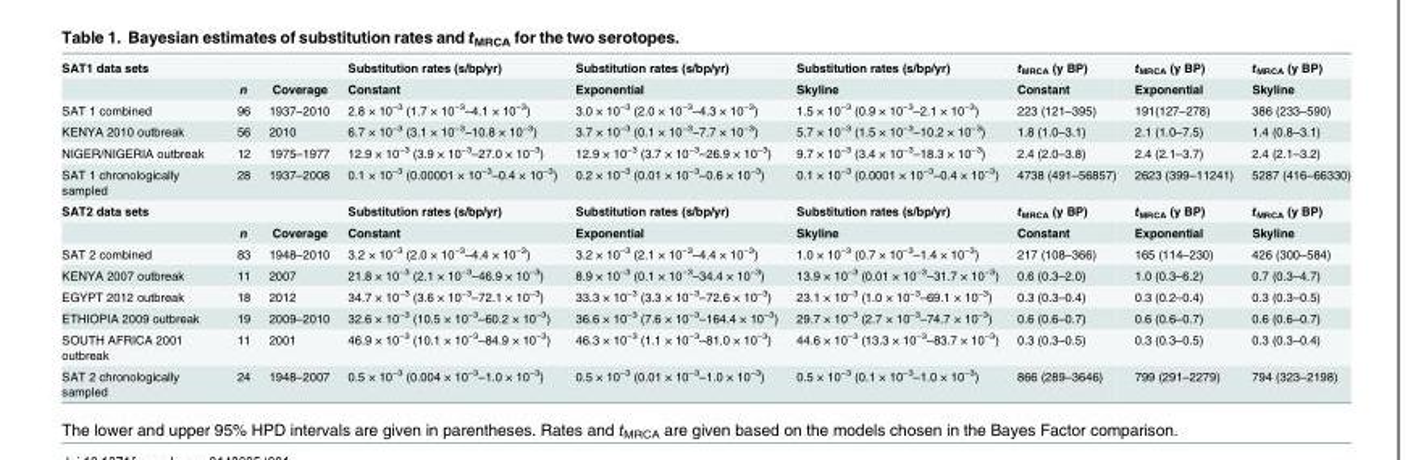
<table><tbody><tr><td rowspan="2">SAT1 data sets</td><td></td><td></td><td>Substitution rates (s/bp/yr)</td><td>Substitution rates (s/bp/yr)</td><td>Substitution rates (s/bp/yr)</td><td>t<sub>MRCA</sub> (y BP)</td><td>t<sub>MRCA</sub> (y BP)</td><td>t<sub>MRCA</sub> (y BP)</td></tr><tr><td>n</td><td>Coverage</td><td>Constant</td><td>Exponential</td><td>Skyline</td><td>Constant</td><td>Exponential</td><td>Skyline</td></tr><tr><td>SAT 1 combined</td><td>96</td><td>1937–2010</td><td>2.8 × 10<sup>−3</sup> (1.7 × 10<sup>−3</sup>–4.1 × 10<sup>−3</sup>)</td><td>3.0 × 10<sup>−3</sup> (2.0 × 10<sup>−3</sup>–4.3 × 10<sup>−3</sup>)</td><td>1.5 × 10<sup>−3</sup> (0.9 × 10<sup>−3</sup>–2.1 × 10<sup>−3</sup>)</td><td>223 (121–395)</td><td>191(127–278)</td><td>386 (233–590)</td></tr><tr><td>KENYA 2010 outbreak</td><td>56</td><td>2010</td><td>6.7 × 10<sup>−3</sup> (3.1 × 10<sup>−3</sup>–10.8 × 10<sup>−3</sup>)</td><td>3.7 × 10<sup>−3</sup> (0.1 × 10<sup>−3</sup>–7.7 × 10<sup>−3</sup>)</td><td>5.7 × 10<sup>−3</sup> (1.5 × 10<sup>−3</sup>–10.2 × 10<sup>−3</sup>)</td><td>1.8 (1.0–3.1)</td><td>2.1 (1.0–7.5)</td><td>1.4 (0.8–3.1)</td></tr><tr><td>NIGER/NIGERIA outbreak</td><td>12</td><td>1975–1977</td><td>12.9 × 10<sup>−3</sup> (3.9 × 10<sup>−3</sup>–27.0 × 10<sup>−3</sup>)</td><td>12.9 × 10<sup>−3</sup> (3.7 × 10<sup>−3</sup>–26.9 × 10<sup>−3</sup>)</td><td>9.7 × 10<sup>−3</sup> (3.4 × 10<sup>−3</sup>–18.3 × 10<sup>−3</sup>)</td><td>2.4 (2.0–3.8)</td><td>2.4 (2.1–3.7)</td><td>2.4 (2.1–3.2)</td></tr><tr><td>SAT 1 chronologically sampled</td><td>28</td><td>1937–2008</td><td>0.1 × 10<sup>−3</sup> (0.00001 × 10<sup>−3</sup>–0.4 × 10<sup>−3</sup>)</td><td>0.2 × 10<sup>−3</sup> (0.01 × 10<sup>−3</sup>–0.6 × 10<sup>−3</sup>)</td><td>0.1 × 10<sup>−3</sup> (0.0001 × 10<sup>−3</sup>–0.4 × 10<sup>−3</sup>)</td><td>4738 (491–56857)</td><td>2623 (399–11241)</td><td>5287 (416–66330)</td></tr><tr><td rowspan="2">SAT2 data sets</td><td></td><td></td><td>Substitution rates (s/bp/yr)</td><td>Substitution rates (s/bp/yr)</td><td>Substitution rates (s/bp/yr)</td><td>t<sub>MRCA</sub> (y BP)</td><td>t<sub>MRCA</sub> (y BP)</td><td>t<sub>MRCA</sub> (y BP)</td></tr><tr><td>n</td><td>Coverage</td><td>Constant</td><td>Exponential</td><td>Skyline</td><td>Constant</td><td>Exponential</td><td>Skyline</td></tr><tr><td>SAT 2 combined</td><td>83</td><td>1948–2010</td><td>3.2 × 10<sup>−3</sup> (2.0 × 10<sup>−3</sup>–4.4 × 10<sup>−3</sup>)</td><td>3.2 × 10<sup>−3</sup> (2.1 × 10<sup>−3</sup>–4.4 × 10<sup>−3</sup>)</td><td>1.0 × 10<sup>−3</sup> (0.7 × 10<sup>−3</sup>–1.4 × 10<sup>−3</sup>)</td><td>217 (108–366)</td><td>165 (114–230)</td><td>426 (300–584)</td></tr><tr><td>KENYA 2007 outbreak</td><td>11</td><td>2007</td><td>21.8 × 10<sup>−3</sup> (2.1 × 10<sup>−3</sup>–46.9 × 10<sup>−3</sup>)</td><td>8.9 × 10<sup>−3</sup> (0.1 × 10<sup>−3</sup>–34.4 × 10<sup>−3</sup>)</td><td>13.9 × 10<sup>−3</sup> (0.01 × 10<sup>−3</sup>–31.7 × 10<sup>−3</sup>)</td><td>0.6 (0.3–2.0)</td><td>1.0 (0.3–6.2)</td><td>0.7 (0.3–4.7)</td></tr><tr><td>EGYPT 2012 outbreak</td><td>18</td><td>2012</td><td>34.7 × 10<sup>−3</sup> (3.6 × 10<sup>−3</sup>–72.1 × 10<sup>−3</sup>)</td><td>33.3 × 10<sup>−3</sup> (3.3 × 10<sup>−3</sup>–72.6 × 10<sup>−3</sup>)</td><td>23.1 × 10<sup>−3</sup> (1.0 × 10<sup>−3</sup>–69.1 × 10<sup>−3</sup>)</td><td>0.3 (0.3–0.4)</td><td>0.3 (0.2–0.4)</td><td>0.3 (0.3–0.5)</td></tr><tr><td>ETHIOPIA 2009 outbreak</td><td>19</td><td>2009–2010</td><td>32.6 × 10<sup>−3</sup> (10.5 × 10<sup>−3</sup>–60.2 × 10<sup>−3</sup>)</td><td>36.6 × 10<sup>−3</sup> (7.6 × 10<sup>−3</sup>–164.4 × 10<sup>−3</sup>)</td><td>29.7 × 10<sup>−3</sup> (2.7 × 10<sup>−3</sup>–74.7 × 10<sup>−3</sup>)</td><td>0.6 (0.6–0.7)</td><td>0.6 (0.6–0.7)</td><td>0.6 (0.6–0.7)</td></tr><tr><td>SOUTH AFRICA 2001 outbreak</td><td>11</td><td>2001</td><td>46.9 × 10<sup>−3</sup> (10.1 × 10<sup>−3</sup>–84.9 × 10<sup>−3</sup>)</td><td>46.3 × 10<sup>−3</sup> (1.1 × 10<sup>−3</sup>–81.0 × 10<sup>−3</sup>)</td><td>44.6 × 10<sup>−3</sup> (13.3 × 10<sup>−3</sup>–83.7 × 10<sup>−3</sup>)</td><td>0.3 (0.3–0.5)</td><td>0.3 (0.3–0.5)</td><td>0.3 (0.3–0.4)</td></tr><tr><td>SAT 2 chronologically sampled</td><td>24</td><td>1948–2007</td><td>0.5 × 10<sup>−3</sup> (0.004 × 10<sup>−3</sup>–1.0 × 10<sup>−3</sup>)</td><td>0.5 × 10<sup>−3</sup> (0.01 × 10<sup>−3</sup>–1.0 × 10<sup>−3</sup>)</td><td>0.5 × 10<sup>−3</sup> (0.1 × 10<sup>−3</sup>–1.0 × 10<sup>−3</sup>)</td><td>866 (289–3646)</td><td>799 (291–2279)</td><td>794 (323–2198)</td></tr></tbody></table>